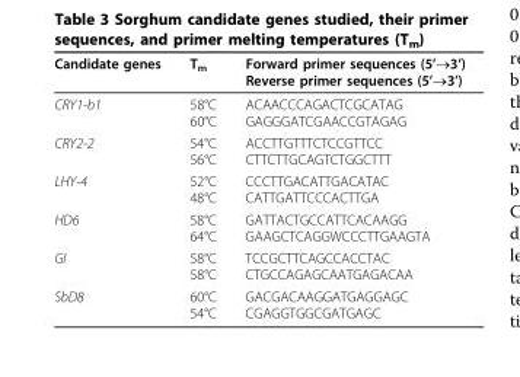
<table><tbody><tr><td>Candidate genes</td><td>T<sub>m</sub></td><td>Forward primer sequences (5’→3’) Reverse primer sequences (5’→3’)</td></tr><tr><td>CRY1-b1</td><td>58°C 60°C</td><td>ACAACCCAGACTCGCATAG GAGGGATCGAACCGTAGAG</td></tr><tr><td>CRY2-2</td><td>54°C 56°C</td><td>ACCTTGTTTCTCCGTTCC CTTCTTGCAGTCTGGCTTT</td></tr><tr><td>LHY-4</td><td>52°C 48°C</td><td>CCCTTGACATTGACATAC CATTGATTCCCACTTGA</td></tr><tr><td>HD6</td><td>58°C 64°C</td><td>GATTACTGCCATTCACAAGG GAAGCTCAGGWCCCTTGAAGTA</td></tr><tr><td>GI</td><td>58°C 58°C</td><td>TCCGCTTCAGCCACCTAC CTGCCAGAGCAATGAGACAA</td></tr><tr><td>SbD8</td><td>60°C 54°C</td><td>GACGACAAGGATGAGGAGC CGAGGTGGCGATGAGC</td></tr></tbody></table>